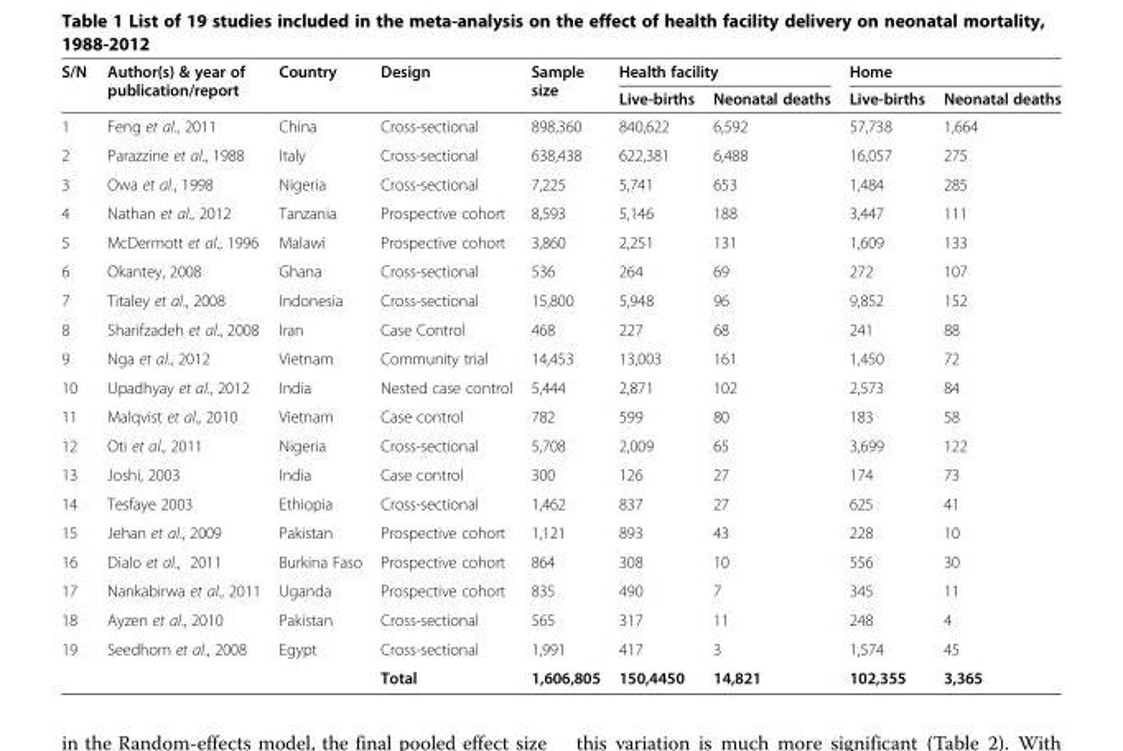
<table><thead><tr><td rowspan="2">S/N</td><td rowspan="2">Author(s) &amp; year of publication/report</td><td rowspan="2">Country</td><td rowspan="2">Design</td><td rowspan="2">Sample size</td><td colspan="2">Health facility</td><td colspan="2">Home</td></tr><tr><td>Live-births</td><td>Neonatal deaths</td><td>Live-births</td><td>Neonatal deaths</td></tr></thead><tbody><tr><td>1</td><td>Feng et al., 2011</td><td>China</td><td>Cross-sectional</td><td>898,360</td><td>840,622</td><td>6,592</td><td>57,738</td><td>1,664</td></tr><tr><td>2</td><td>Parazzine et al., 1988</td><td>Italy</td><td>Cross-sectional</td><td>638,438</td><td>622,381</td><td>6,488</td><td>16,057</td><td>275</td></tr><tr><td>3</td><td>Owa et al., 1998</td><td>Nigeria</td><td>Cross-sectional</td><td>7,225</td><td>5,741</td><td>653</td><td>1,484</td><td>285</td></tr><tr><td>4</td><td>Nathan et al., 2012</td><td>Tanzania</td><td>Prospective cohort</td><td>8,593</td><td>5,146</td><td>188</td><td>3,447</td><td>111</td></tr><tr><td>5</td><td>McDermott et al., 1996</td><td>Malawi</td><td>Prospective cohort</td><td>3,860</td><td>2,251</td><td>131</td><td>1,609</td><td>133</td></tr><tr><td>6</td><td>Okantey, 2008</td><td>Ghana</td><td>Cross-sectional</td><td>536</td><td>264</td><td>69</td><td>272</td><td>107</td></tr><tr><td>7</td><td>Titaley et al., 2008</td><td>Indonesia</td><td>Cross-sectional</td><td>15,800</td><td>5,948</td><td>96</td><td>9,852</td><td>152</td></tr><tr><td>8</td><td>Sharifzadeh et al., 2008</td><td>Iran</td><td>Case Control</td><td>468</td><td>227</td><td>68</td><td>241</td><td>88</td></tr><tr><td>9</td><td>Nga et al., 2012</td><td>Vietnam</td><td>Community trial</td><td>14,453</td><td>13,003</td><td>161</td><td>1,450</td><td>72</td></tr><tr><td>10</td><td>Upadhyay et al., 2012</td><td>India</td><td>Nested case control</td><td>5,444</td><td>2,871</td><td>102</td><td>2,573</td><td>84</td></tr><tr><td>11</td><td>Malqvist et al., 2010</td><td>Vietnam</td><td>Case control</td><td>782</td><td>599</td><td>80</td><td>183</td><td>58</td></tr><tr><td>12</td><td>Oti et al., 2011</td><td>Nigeria</td><td>Cross-sectional</td><td>5,708</td><td>2,009</td><td>65</td><td>3,699</td><td>122</td></tr><tr><td>13</td><td>Joshi, 2003</td><td>India</td><td>Case control</td><td>300</td><td>126</td><td>27</td><td>174</td><td>73</td></tr><tr><td>14</td><td>Tesfaye 2003</td><td>Ethiopia</td><td>Cross-sectional</td><td>1,462</td><td>837</td><td>27</td><td>625</td><td>41</td></tr><tr><td>15</td><td>Jehan et al., 2009</td><td>Pakistan</td><td>Prospective cohort</td><td>1,121</td><td>893</td><td>43</td><td>228</td><td>10</td></tr><tr><td>16</td><td>Dialo et al., 2011</td><td>Burkina Faso</td><td>Prospective cohort</td><td>864</td><td>308</td><td>10</td><td>556</td><td>30</td></tr><tr><td>17</td><td>Nankabirwa et al., 2011</td><td>Uganda</td><td>Prospective cohort</td><td>835</td><td>490</td><td>7</td><td>345</td><td>11</td></tr><tr><td>18</td><td>Ayzen et al., 2010</td><td>Pakistan</td><td>Cross-sectional</td><td>565</td><td>317</td><td>11</td><td>248</td><td>4</td></tr><tr><td rowspan="2">19</td><td>Seedhom et al., 2008</td><td>Egypt</td><td>Cross-sectional</td><td>1,991</td><td>417</td><td>3</td><td>1,574</td><td>45</td></tr><tr><td></td><td></td><td>Total</td><td>1,606,805</td><td>150,4450</td><td>14,821</td><td>102,355</td><td>3,365</td></tr></tbody></table>